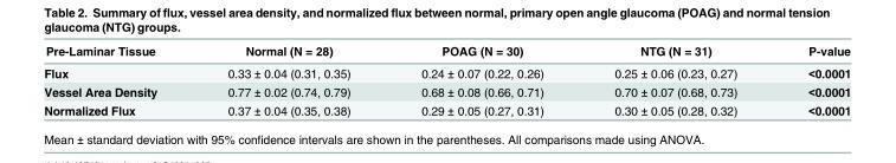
<table><thead><tr><td>Pre-Laminar Tissue</td><td>Normal (N = 28)</td><td>POAG (N = 30)</td><td>NTG (N = 31)</td><td>P-value</td></tr></thead><tbody><tr><td>Flux</td><td>0.33 ± 0.04 (0.31, 0.35)</td><td>0.24 ± 0.07 (0.22, 0.26)</td><td>0.25 ± 0.06 (0.23, 0.27)</td><td>&lt;0.0001</td></tr><tr><td>Vessel Area Density</td><td>0.77 ± 0.02 (0.74, 0.79)</td><td>0.68 ± 0.08 (0.66, 0.71)</td><td>0.70 ± 0.07 (0.68, 0.73)</td><td>&lt;0.0001</td></tr><tr><td>Normalized Flux</td><td>0.37 ± 0.04 (0.35, 0.38)</td><td>0.29 ± 0.05 (0.27, 0.31)</td><td>0.30 ± 0.05 (0.28, 0.32)</td><td>&lt;0.0001</td></tr></tbody></table>